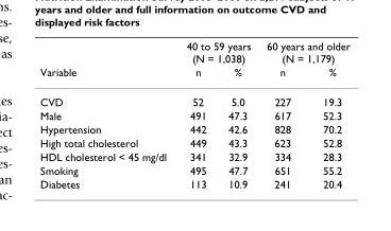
<table><thead><tr><td rowspan="2">Variable</td><td colspan="2">40 to 59 years (N = 1,038)</td><td colspan="2">60 years and older (N = 1,179)</td></tr><tr><td>n</td><td>%</td><td>n</td><td>%</td></tr></thead><tbody><tr><td>CVD</td><td>52</td><td>5.0</td><td>227</td><td>19.3</td></tr><tr><td>Male</td><td>491</td><td>47.3</td><td>617</td><td>52.3</td></tr><tr><td>Hypertension</td><td>442</td><td>42.6</td><td>828</td><td>70.2</td></tr><tr><td>High total cholesterol</td><td>449</td><td>43.3</td><td>623</td><td>52.8</td></tr><tr><td>HDL cholesterol &lt; 45 mg/dl</td><td>341</td><td>32.9</td><td>334</td><td>28.3</td></tr><tr><td>Smoking</td><td>495</td><td>47.7</td><td>651</td><td>55.2</td></tr><tr><td>Diabetes</td><td>113</td><td>10.9</td><td>241</td><td>20.4</td></tr></tbody></table>